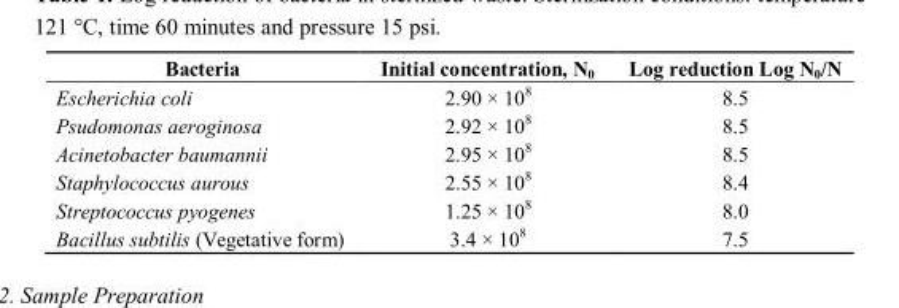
<table><thead><tr><td>Bacteria</td><td>Initial concentration, N<sub>0</sub></td><td>Log reduction Log N<sub>0</sub>/N</td></tr></thead><tbody><tr><td>Escherichia coli</td><td>2.90 × 10<sup>8</sup></td><td>8.5</td></tr><tr><td>Psudomonas aeroginosa</td><td>2.92 × 10<sup>8</sup></td><td>8.5</td></tr><tr><td>Acinetobacter baumannii</td><td>2.95 × 10<sup>8</sup></td><td>8.5</td></tr><tr><td>Staphylococcus aurous</td><td>2.55 × 10<sup>8</sup></td><td>8.4</td></tr><tr><td>Streptococcus pyogenes</td><td>1.25 × 10<sup>8</sup></td><td>8.0</td></tr><tr><td>Bacillus subtilis (Vegetative form)</td><td>3.4 × 10<sup>8</sup></td><td>7.5</td></tr></tbody></table>